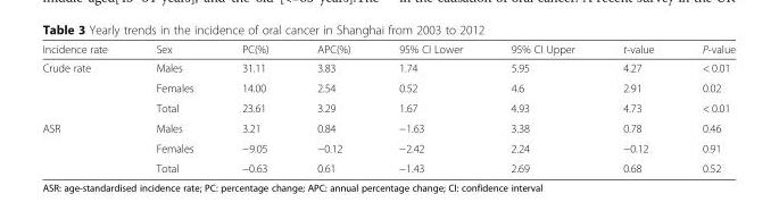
<table><thead><tr><td>Incidence rate</td><td>Sex</td><td>PC(%)</td><td>APC(%)</td><td>95% CI Lower</td><td>95% CI Upper</td><td>t-value</td><td>P-value</td></tr></thead><tbody><tr><td rowspan="3">Crude rate</td><td>Males</td><td>31.11</td><td>3.83</td><td>1.74</td><td>5.95</td><td>4.27</td><td>&lt; 0.01</td></tr><tr><td>Females</td><td>14.00</td><td>2.54</td><td>0.52</td><td>4.6</td><td>2.91</td><td>0.02</td></tr><tr><td>Total</td><td>23.61</td><td>3.29</td><td>1.67</td><td>4.93</td><td>4.73</td><td>&lt; 0.01</td></tr><tr><td rowspan="3">ASR</td><td>Males</td><td>3.21</td><td>0.84</td><td>−1.63</td><td>3.38</td><td>0.78</td><td>0.46</td></tr><tr><td>Females</td><td>−9.05</td><td>−0.12</td><td>−2.42</td><td>2.24</td><td>−0.12</td><td>0.91</td></tr><tr><td>Total</td><td>−0.63</td><td>0.61</td><td>−1.43</td><td>2.69</td><td>0.68</td><td>0.52</td></tr></tbody></table>